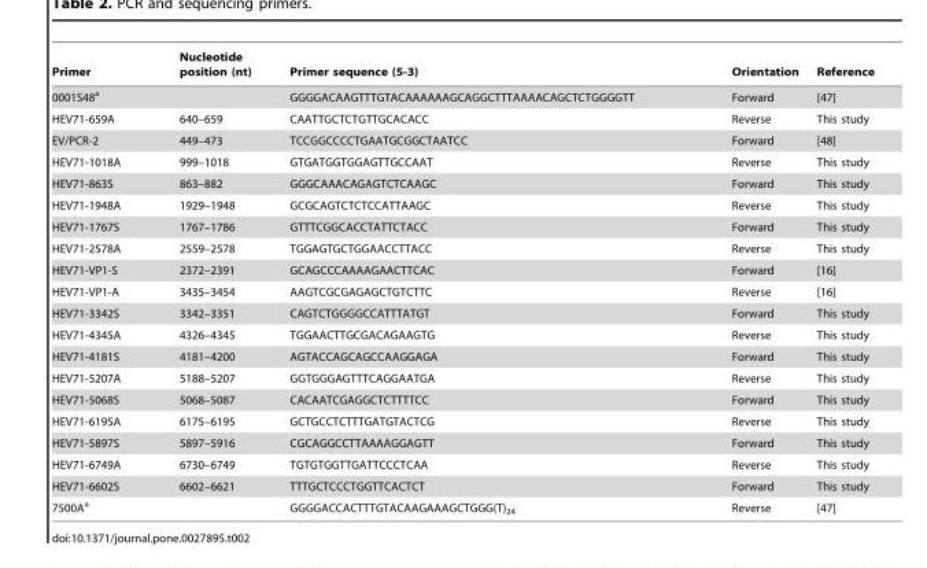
<table><thead><tr><td>Primer</td><td>Nucleotide position (nt)</td><td>Primer sequence (5-3)</td><td>Orientation</td><td>Reference</td></tr></thead><tbody><tr><td>0001S48<sup>a</sup></td><td></td><td>GGGGACAAGTTTGTACAAAAAAGCAGGCTTTAAAACAGCTCTGGGGTT</td><td>Forward</td><td>[47]</td></tr><tr><td>HEV71-659A</td><td>640–659</td><td>CAATTGCTCTGTTGCACACC</td><td>Reverse</td><td>This study</td></tr><tr><td>EV/PCR-2</td><td>449–473</td><td>TCCGGCCCCTGAATGCGGCTAATCC</td><td>Forward</td><td>[48]</td></tr><tr><td>HEV71-1018A</td><td>999–1018</td><td>GTGATGGTGGAGTTGCCAAT</td><td>Reverse</td><td>This study</td></tr><tr><td>HEV71-863S</td><td>863–882</td><td>GGGCAAACAGAGTCTCAAGC</td><td>Forward</td><td>This study</td></tr><tr><td>HEV71-1948A</td><td>1929–1948</td><td>GCGCAGTCTCTCCATTAAGC</td><td>Reverse</td><td>This study</td></tr><tr><td>HEV71-1767S</td><td>1767–1786</td><td>GTTTCGGCACCTATTCTACC</td><td>Forward</td><td>This study</td></tr><tr><td>HEV71-2578A</td><td>2559–2578</td><td>TGGAGTGCTGGAACCTTACC</td><td>Reverse</td><td>This study</td></tr><tr><td>HEV71-VP1-S</td><td>2372–2391</td><td>GCAGCCCAAAAGAACTTCAC</td><td>Forward</td><td>[16]</td></tr><tr><td>HEV71-VP1-A</td><td>3435–3454</td><td>AAGTCGCGAGAGCTGTCTTC</td><td>Reverse</td><td>[16]</td></tr><tr><td>HEV71-3342S</td><td>3342–3351</td><td>CAGTCTGGGGCCATTTATGT</td><td>Forward</td><td>This study</td></tr><tr><td>HEV71-4345A</td><td>4326–4345</td><td>TGGAACTTGCGACAGAAGTG</td><td>Reverse</td><td>This study</td></tr><tr><td>HEV71-4181S</td><td>4181–4200</td><td>AGTACCAGCAGCCAAGGAGA</td><td>Forward</td><td>This study</td></tr><tr><td>HEV71-5207A</td><td>5188–5207</td><td>GGTGGGAGTTTCAGGAATGA</td><td>Reverse</td><td>This study</td></tr><tr><td>HEV71-5068S</td><td>5068–5087</td><td>CACAATCGAGGCTCTTTTCC</td><td>Forward</td><td>This study</td></tr><tr><td>HEV71-6195A</td><td>6175–6195</td><td>GCTGCCTCTTTGATGTACTCG</td><td>Reverse</td><td>This study</td></tr><tr><td>HEV71-5897S</td><td>5897–5916</td><td>CGCAGGCCTTAAAAGGAGTT</td><td>Forward</td><td>This study</td></tr><tr><td>HEV71-6749A</td><td>6730–6749</td><td>TGTGTGGTTGATTCCCTCAA</td><td>Reverse</td><td>This study</td></tr><tr><td>HEV71-6602S</td><td>6602–6621</td><td>TTTGCTCCCTGGTTCACTCT</td><td>Forward</td><td>This study</td></tr><tr><td>7500A<sup>a</sup></td><td></td><td>GGGGACCACTTTGTACAAGAAAGCTGGG(T)<sub>24</sub></td><td>Reverse</td><td>[47]</td></tr></tbody></table>